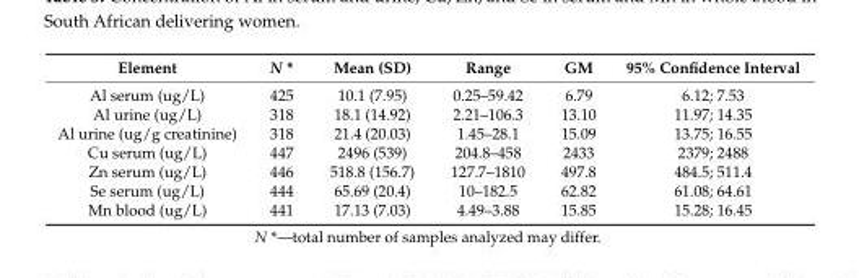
<table><thead><tr><td>Element</td><td>N *</td><td>Mean (SD)</td><td>Range</td><td>GM</td><td>95% Confidence Interval</td></tr></thead><tbody><tr><td>Al serum (ug/L)</td><td>425</td><td>10.1 (7.95)</td><td>0.25–59.42</td><td>6.79</td><td>6.12; 7.53</td></tr><tr><td>Al urine (ug/L)</td><td>318</td><td>18.1 (14.92)</td><td>2.21–106.3</td><td>13.10</td><td>11.97; 14.35</td></tr><tr><td>Al urine (ug/g creatinine)</td><td>318</td><td>21.4 (20.03)</td><td>1.45–28.1</td><td>15.09</td><td>13.75; 16.55</td></tr><tr><td>Cu serum (ug/L)</td><td>447</td><td>2496 (539)</td><td>204.8–458</td><td>2433</td><td>2379; 2488</td></tr><tr><td>Zn serum (ug/L)</td><td>446</td><td>518.8 (156.7)</td><td>127.7–1810</td><td>497.8</td><td>484.5; 511.4</td></tr><tr><td>Se serum (ug/L)</td><td>444</td><td>65.69 (20.4)</td><td>10–182.5</td><td>62.82</td><td>61.08; 64.61</td></tr><tr><td>Mn blood (ug/L)</td><td>441</td><td>17.13 (7.03)</td><td>4.49–3.88</td><td>15.85</td><td>15.28; 16.45</td></tr></tbody></table>